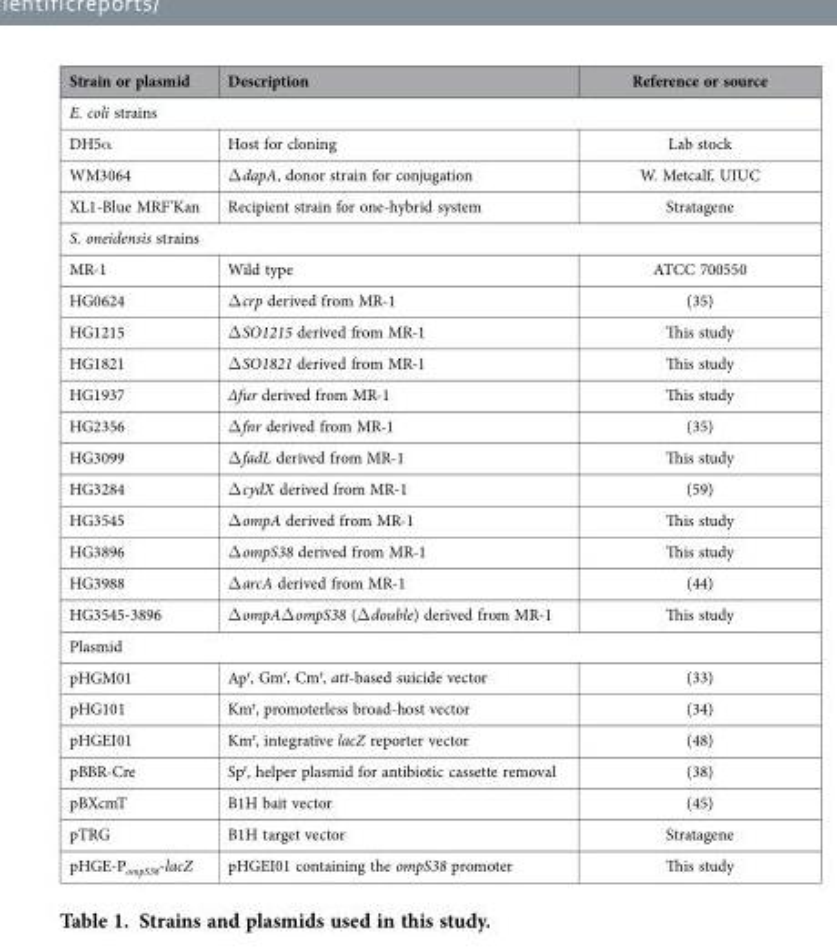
<table><thead><tr><td>Strain or plasmid</td><td>Description</td><td>Reference or source</td></tr></thead><tbody><tr><td colspan="3">E. coli strains</td></tr><tr><td>DH5α</td><td>Host for cloning</td><td>Lab stock</td></tr><tr><td>WM3064</td><td>Δ dapA, donor strain for conjugation</td><td>W. Metcalf, UIUC</td></tr><tr><td>XL1-Blue MRF’Kan</td><td>Recipient strain for one-hybrid system</td><td>Stratagene</td></tr><tr><td colspan="3">S. oneidensis strains</td></tr><tr><td>MR-1</td><td>Wild type</td><td>ATCC 700550</td></tr><tr><td>HG0624</td><td>Δ crp derived from MR-1</td><td>(35)</td></tr><tr><td>HG1215</td><td>Δ SO1215 derived from MR-1</td><td>This study</td></tr><tr><td>HG1821</td><td>Δ SO1821 derived from MR-1</td><td>This study</td></tr><tr><td>HG1937</td><td>∆fur derived from MR-1</td><td>This study</td></tr><tr><td>HG2356</td><td>Δ fnr derived from MR-1</td><td>(35)</td></tr><tr><td>HG3099</td><td>Δ fadL derived from MR-1</td><td>This study</td></tr><tr><td>HG3284</td><td>Δ cydX derived from MR-1</td><td>(59)</td></tr><tr><td>HG3545</td><td>Δ ompA derived from MR-1</td><td>This study</td></tr><tr><td>HG3896</td><td>Δ ompS38 derived from MR-1</td><td>This study</td></tr><tr><td>HG3988</td><td>Δ arcA derived from MR-1</td><td>(44)</td></tr><tr><td>HG3545-3896</td><td>Δ ompAΔ ompS38 (Δ double) derived from MR-1</td><td>This study</td></tr><tr><td colspan="3">Plasmid</td></tr><tr><td>pHGM01</td><td>Ap<sup>r</sup>, Gm<sup>r</sup>, Cm<sup>r</sup>, att-based suicide vector</td><td>(33)</td></tr><tr><td>pHG101</td><td>Km<sup>r</sup>, promoterless broad-host vector</td><td>(34)</td></tr><tr><td>pHGEI01</td><td>Km<sup>r</sup>, integrative lacZ reporter vector</td><td>(48)</td></tr><tr><td>pBBR-Cre</td><td>Sp<sup>r</sup>, helper plasmid for antibiotic cassette removal</td><td>(38)</td></tr><tr><td>pBXcmT</td><td>B1H bait vector</td><td>(45)</td></tr><tr><td>pTRG</td><td>B1H target vector</td><td>Stratagene</td></tr><tr><td>pHGE-P<sub>ompS38</sub>-lacZ</td><td>pHGEI01 containing the ompS38 promoter</td><td>This study</td></tr></tbody></table>